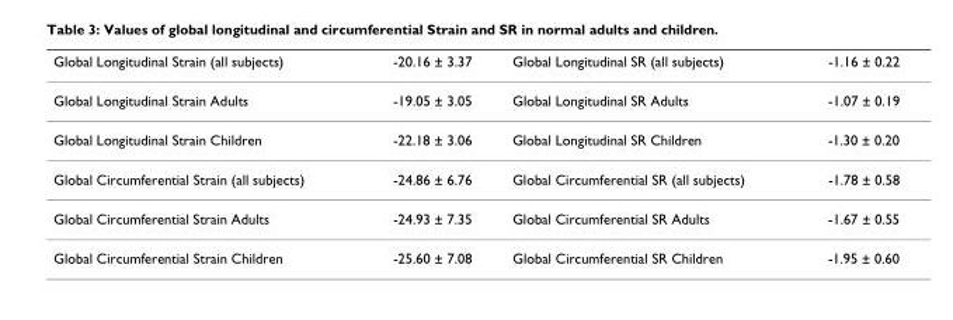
<table><thead><tr><td>Global Longitudinal Strain (all subjects)</td><td>-20.16 ± 3.37</td><td>Global Longitudinal SR (all subjects)</td><td>-1.16 ± 0.22</td></tr></thead><tbody><tr><td>Global Longitudinal Strain Adults</td><td>-19.05 ± 3.05</td><td>Global Longitudinal SR Adults</td><td>-1.07 ± 0.19</td></tr><tr><td>Global Longitudinal Strain Children</td><td>-22.18 ± 3.06</td><td>Global Longitudinal SR Children</td><td>-1.30 ± 0.20</td></tr><tr><td>Global Circumferential Strain (all subjects)</td><td>-24.86 ± 6.76</td><td>Global Circumferential SR (all subjects)</td><td>-1.78 ± 0.58</td></tr><tr><td>Global Circumferential Strain Adults</td><td>-24.93 ± 7.35</td><td>Global Circumferential SR Adults</td><td>-1.67 ± 0.55</td></tr><tr><td>Global Circumferential Strain Children</td><td>-25.60 ± 7.08</td><td>Global Circumferential SR Children</td><td>-1.95 ± 0.60</td></tr></tbody></table>